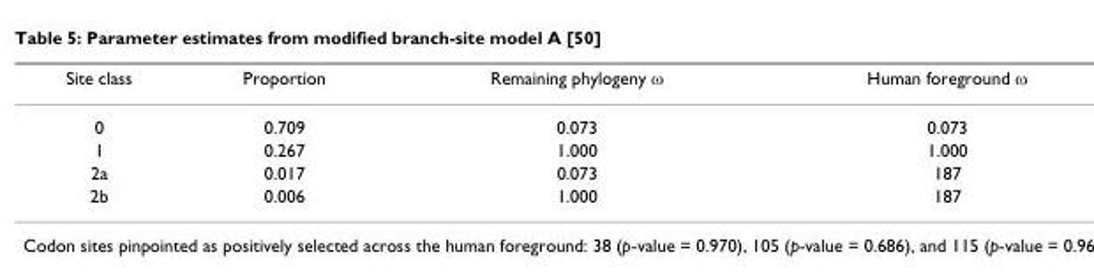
<table><thead><tr><td>Site class</td><td>Proportion</td><td>Remaining phylogeny ω</td><td>Human foreground ω</td></tr></thead><tbody><tr><td>0</td><td>0.709</td><td>0.073</td><td>0.073</td></tr><tr><td>1</td><td>0.267</td><td>1.000</td><td>1.000</td></tr><tr><td>2a</td><td>0.017</td><td>0.073</td><td>187</td></tr><tr><td>2b</td><td>0.006</td><td>1.000</td><td>187</td></tr></tbody></table>